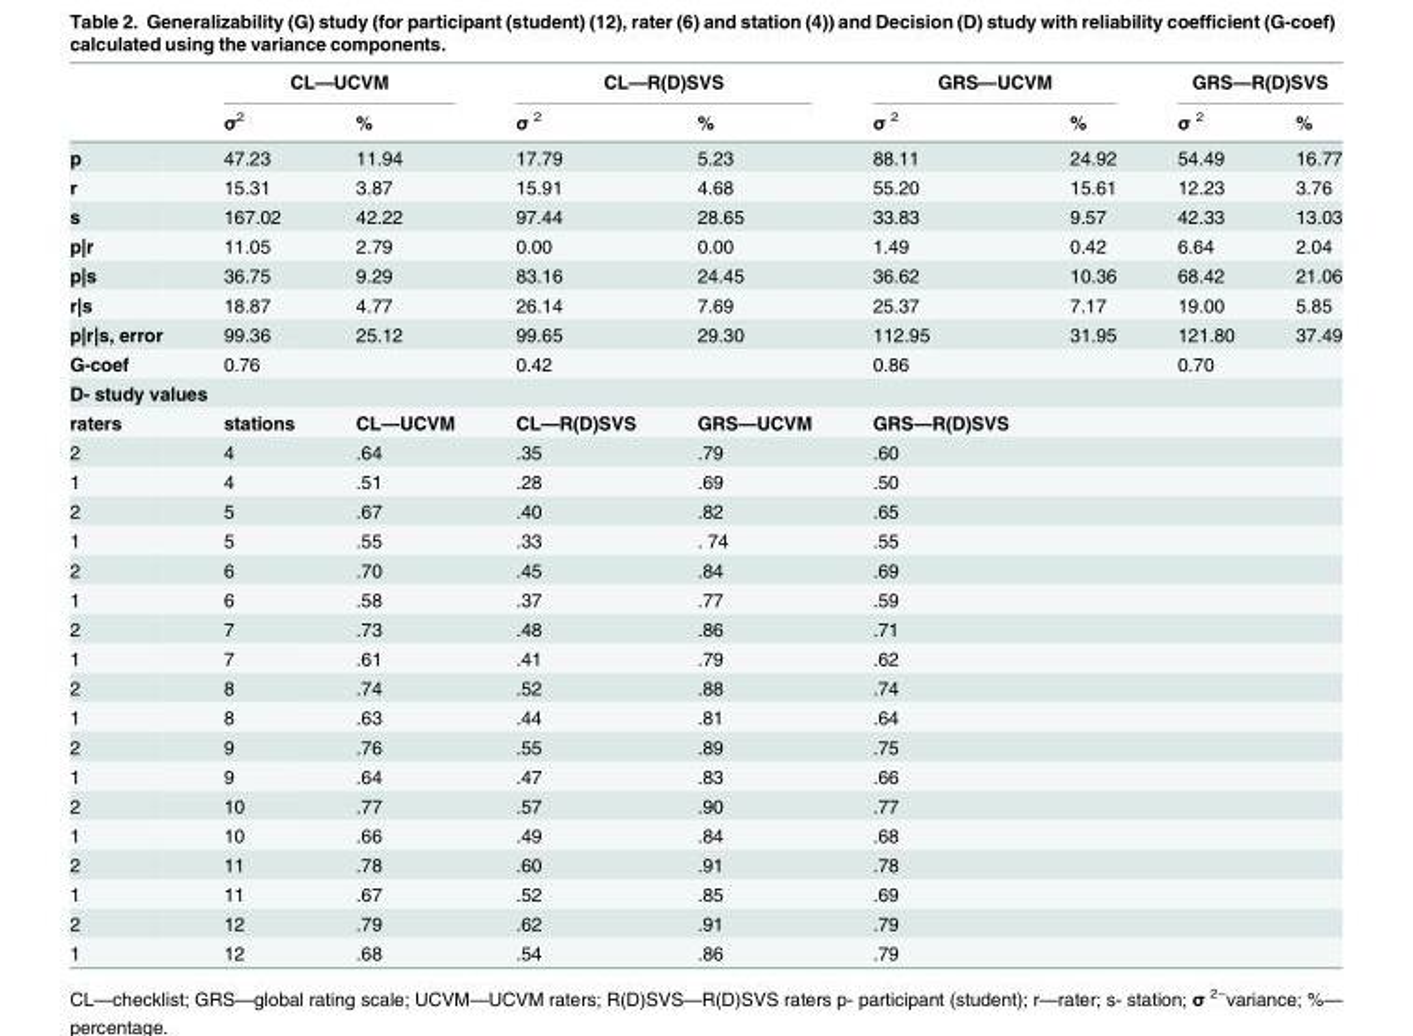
<table><thead><tr><td rowspan="2"></td><td colspan="2">CL—UCVM</td><td colspan="2">CL—R(D)SVS</td><td colspan="2">GRS—UCVM</td><td colspan="2">GRS—R(D)SVS</td></tr><tr><td>σ<sup>2</sup></td><td>%</td><td>σ <sup>2</sup></td><td>%</td><td>σ <sup>2</sup></td><td>%</td><td>σ <sup>2</sup></td><td>%</td></tr></thead><tbody><tr><td>p</td><td>47.23</td><td>11.94</td><td>17.79</td><td>5.23</td><td>88.11</td><td>24.92</td><td>54.49</td><td>16.77</td></tr><tr><td>r</td><td>15.31</td><td>3.87</td><td>15.91</td><td>4.68</td><td>55.20</td><td>15.61</td><td>12.23</td><td>3.76</td></tr><tr><td>s</td><td>167.02</td><td>42.22</td><td>97.44</td><td>28.65</td><td>33.83</td><td>9.57</td><td>42.33</td><td>13.03</td></tr><tr><td>p|r</td><td>11.05</td><td>2.79</td><td>0.00</td><td>0.00</td><td>1.49</td><td>0.42</td><td>6.64</td><td>2.04</td></tr><tr><td>p|s</td><td>36.75</td><td>9.29</td><td>83.16</td><td>24.45</td><td>36.62</td><td>10.36</td><td>68.42</td><td>21.06</td></tr><tr><td>r|s</td><td>18.87</td><td>4.77</td><td>26.14</td><td>7.69</td><td>25.37</td><td>7.17</td><td>19.00</td><td>5.85</td></tr><tr><td>p|r|s, error</td><td>99.36</td><td>25.12</td><td>99.65</td><td>29.30</td><td>112.95</td><td>31.95</td><td>121.80</td><td>37.49</td></tr><tr><td>G-coef</td><td>0.76</td><td></td><td>0.42</td><td></td><td>0.86</td><td></td><td>0.70</td><td></td></tr><tr><td colspan="9">D- study values</td></tr><tr><td>raters</td><td>stations</td><td>CL—UCVM</td><td>CL—R(D)SVS</td><td>GRS—UCVM</td><td>GRS—R(D)SVS</td><td></td><td></td><td></td></tr><tr><td>2</td><td>4</td><td>.64</td><td>.35</td><td>.79</td><td>.60</td><td></td><td></td><td></td></tr><tr><td>1</td><td>4</td><td>.51</td><td>.28</td><td>.69</td><td>.50</td><td></td><td></td><td></td></tr><tr><td>2</td><td>5</td><td>.67</td><td>.40</td><td>.82</td><td>.65</td><td></td><td></td><td></td></tr><tr><td>1</td><td>5</td><td>.55</td><td>.33</td><td>. 74</td><td>.55</td><td></td><td></td><td></td></tr><tr><td>2</td><td>6</td><td>.70</td><td>.45</td><td>.84</td><td>.69</td><td></td><td></td><td></td></tr><tr><td>1</td><td>6</td><td>.58</td><td>.37</td><td>.77</td><td>.59</td><td></td><td></td><td></td></tr><tr><td>2</td><td>7</td><td>.73</td><td>.48</td><td>.86</td><td>.71</td><td></td><td></td><td></td></tr><tr><td>1</td><td>7</td><td>.61</td><td>.41</td><td>.79</td><td>.62</td><td></td><td></td><td></td></tr><tr><td>2</td><td>8</td><td>.74</td><td>.52</td><td>.88</td><td>.74</td><td></td><td></td><td></td></tr><tr><td>1</td><td>8</td><td>.63</td><td>.44</td><td>.81</td><td>.64</td><td></td><td></td><td></td></tr><tr><td>2</td><td>9</td><td>.76</td><td>.55</td><td>.89</td><td>.75</td><td></td><td></td><td></td></tr><tr><td>1</td><td>9</td><td>.64</td><td>.47</td><td>.83</td><td>.66</td><td></td><td></td><td></td></tr><tr><td>2</td><td>10</td><td>.77</td><td>.57</td><td>.90</td><td>.77</td><td></td><td></td><td></td></tr><tr><td>1</td><td>10</td><td>.66</td><td>.49</td><td>.84</td><td>.68</td><td></td><td></td><td></td></tr><tr><td>2</td><td>11</td><td>.78</td><td>.60</td><td>.91</td><td>.78</td><td></td><td></td><td></td></tr><tr><td>1</td><td>11</td><td>.67</td><td>.52</td><td>.85</td><td>.69</td><td></td><td></td><td></td></tr><tr><td>2</td><td>12</td><td>.79</td><td>.62</td><td>.91</td><td>.79</td><td></td><td></td><td></td></tr><tr><td>1</td><td>12</td><td>.68</td><td>.54</td><td>.86</td><td>.79</td><td></td><td></td><td></td></tr></tbody></table>